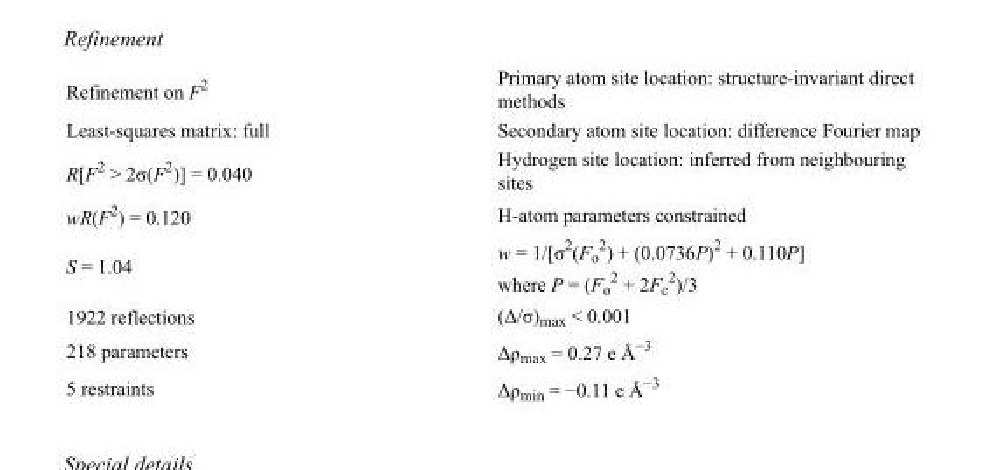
<table><tbody><tr><td>Refinement on F<sup>2</sup></td><td>Primary atom site location: structure-invariant direct methods</td></tr><tr><td>Least-squares matrix: full</td><td>Secondary atom site location: difference Fourier map</td></tr><tr><td>R[F<sup>2</sup> &gt; 2σ(F<sup>2</sup>)] = 0.040</td><td>Hydrogen site location: inferred from neighbouring sites</td></tr><tr><td>wR(F<sup>2</sup>) = 0.120</td><td>H-atom parameters constrained</td></tr><tr><td>S = 1.04</td><td>w = 1/[σ<sup>2</sup>(F<sub>o</sub> <sup>2</sup>) + (0.0736P)<sup>2</sup> + 0.110P] where P = (F<sub>o</sub> <sup>2</sup> + 2F<sub>c</sub> <sup>2</sup>)/3</td></tr><tr><td>1922 reflections</td><td>(Δ/σ)<sub>max</sub> &lt; 0.001</td></tr><tr><td>218 parameters</td><td>Δρ<sub>max</sub> = 0.27 e Å<sup>−3</sup></td></tr><tr><td>5 restraints</td><td>Δρ<sub>min</sub> = −0.11 e Å<sup>−3</sup></td></tr></tbody></table>